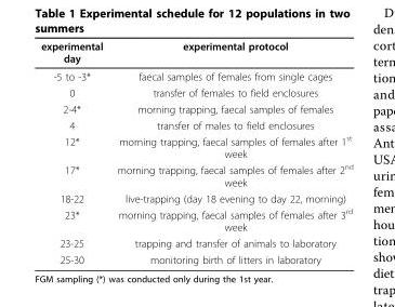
<table><thead><tr><td>experimental day</td><td>experimental protocol</td></tr></thead><tbody><tr><td>-5 to -3*</td><td>faecal samples of females from single cages</td></tr><tr><td>0</td><td>transfer of females to field enclosures</td></tr><tr><td>2-4*</td><td>morning trapping, faecal samples of females</td></tr><tr><td>4</td><td>transfer of males to field enclosures</td></tr><tr><td>12*</td><td>morning trapping, faecal samples of females after 1<sup>st</sup> week</td></tr><tr><td>17*</td><td>morning trapping, faecal samples of females after 2<sup>nd</sup> week</td></tr><tr><td>18-22</td><td>live-trapping (day 18 evening to day 22, morning)</td></tr><tr><td>23*</td><td>morning trapping, faecal samples of females after 3<sup>rd</sup> week</td></tr><tr><td>23-25</td><td>trapping and transfer of animals to laboratory</td></tr><tr><td>25-30</td><td>monitoring birth of litters in laboratory</td></tr></tbody></table>